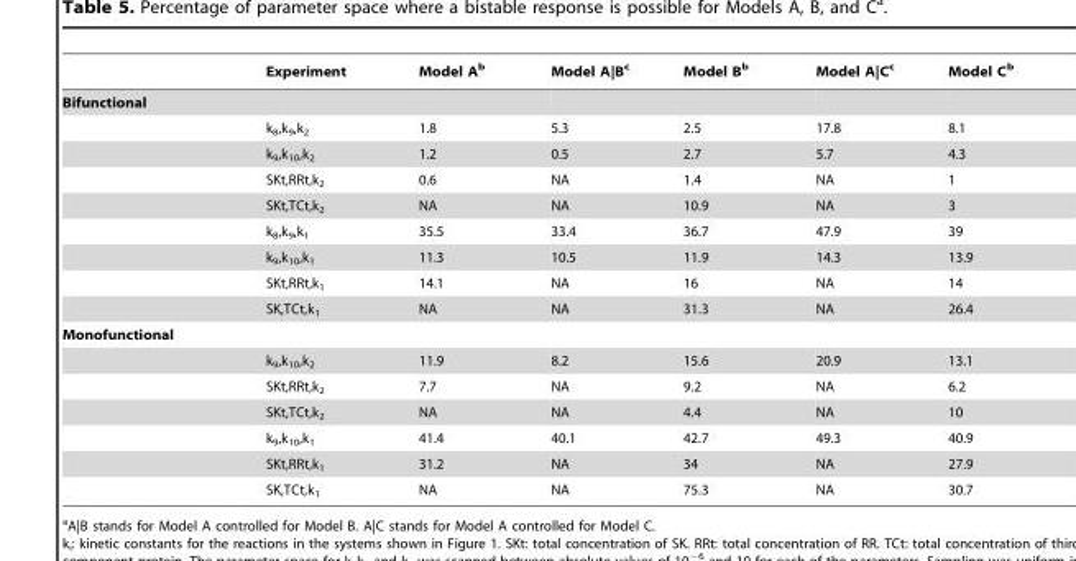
<table><thead><tr><td></td><td>Experiment</td><td>Model A<sup>b</sup></td><td>Model A|B<sup>c</sup></td><td>Model B<sup>b</sup></td><td>Model A|C<sup>c</sup></td><td>Model C<sup>b</sup></td></tr></thead><tbody><tr><td colspan="7">Bifunctional</td></tr><tr><td></td><td>k<sub>8</sub>,k<sub>9</sub>,k<sub>2</sub></td><td>1.8</td><td>5.3</td><td>2.5</td><td>17.8</td><td>8.1</td></tr><tr><td></td><td>k<sub>9</sub>,k<sub>10</sub>,k<sub>2</sub></td><td>1.2</td><td>0.5</td><td>2.7</td><td>5.7</td><td>4.3</td></tr><tr><td></td><td>SKt,RRt,k<sub>2</sub></td><td>0.6</td><td>NA</td><td>1.4</td><td>NA</td><td>1</td></tr><tr><td></td><td>SKt,TCt,k<sub>2</sub></td><td>NA</td><td>NA</td><td>10.9</td><td>NA</td><td>3</td></tr><tr><td></td><td>k<sub>8</sub>,k<sub>9</sub>,k<sub>1</sub></td><td>35.5</td><td>33.4</td><td>36.7</td><td>47.9</td><td>39</td></tr><tr><td></td><td>k<sub>9</sub>,k<sub>10</sub>,k<sub>1</sub></td><td>11.3</td><td>10.5</td><td>11.9</td><td>14.3</td><td>13.9</td></tr><tr><td></td><td>SKt,RRt,k<sub>1</sub></td><td>14.1</td><td>NA</td><td>16</td><td>NA</td><td>14</td></tr><tr><td></td><td>SK,TCt,k<sub>1</sub></td><td>NA</td><td>NA</td><td>31.3</td><td>NA</td><td>26.4</td></tr><tr><td colspan="7">Monofunctional</td></tr><tr><td></td><td>k<sub>9</sub>,k<sub>10</sub>,k<sub>2</sub></td><td>11.9</td><td>8.2</td><td>15.6</td><td>20.9</td><td>13.1</td></tr><tr><td></td><td>SKt,RRt,k<sub>2</sub></td><td>7.7</td><td>NA</td><td>9.2</td><td>NA</td><td>6.2</td></tr><tr><td></td><td>SKt,TCt,k<sub>2</sub></td><td>NA</td><td>NA</td><td>4.4</td><td>NA</td><td>10</td></tr><tr><td></td><td>k<sub>9</sub>,k<sub>10</sub>,k<sub>1</sub></td><td>41.4</td><td>40.1</td><td>42.7</td><td>49.3</td><td>40.9</td></tr><tr><td></td><td>SKt,RRt,k<sub>1</sub></td><td>31.2</td><td>NA</td><td>34</td><td>NA</td><td>27.9</td></tr><tr><td></td><td>SK,TCt,k<sub>1</sub></td><td>NA</td><td>NA</td><td>75.3</td><td>NA</td><td>30.7</td></tr></tbody></table>